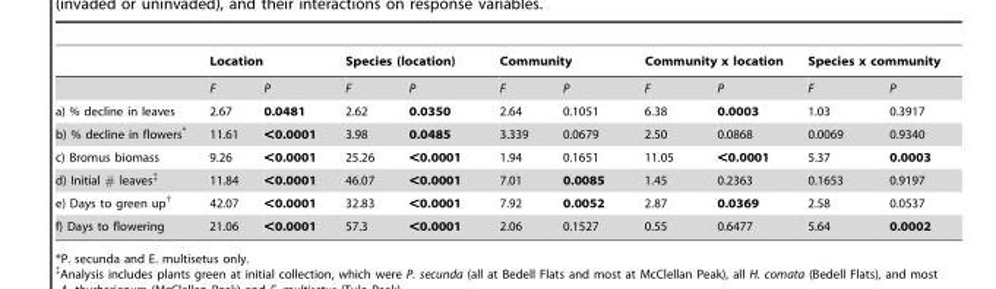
<table><thead><tr><td rowspan="2"></td><td colspan="2">Location</td><td colspan="2">Species (location)</td><td colspan="2">Community</td><td colspan="2">Community x location</td><td colspan="2">Species x community</td></tr><tr><td>F</td><td>P</td><td>F</td><td>P</td><td>F</td><td>P</td><td>F</td><td>P</td><td>F</td><td>P</td></tr></thead><tbody><tr><td>a) % decline in leaves</td><td>2.67</td><td>0.0481</td><td>2.62</td><td>0.0350</td><td>2.64</td><td>0.1051</td><td>6.38</td><td>0.0003</td><td>1.03</td><td>0.3917</td></tr><tr><td>b) % decline in flowers*</td><td>11.61</td><td>&lt;0.0001</td><td>3.98</td><td>0.0485</td><td>3.339</td><td>0.0679</td><td>2.50</td><td>0.0868</td><td>0.0069</td><td>0.9340</td></tr><tr><td>c) Bromus biomass</td><td>9.26</td><td>&lt;0.0001</td><td>25.26</td><td>&lt;0.0001</td><td>1.94</td><td>0.1651</td><td>11.05</td><td>&lt;0.0001</td><td>5.37</td><td>0.0003</td></tr><tr><td>d) Initial # leaves‡</td><td>11.84</td><td>&lt;0.0001</td><td>46.07</td><td>&lt;0.0001</td><td>7.01</td><td>0.0085</td><td>1.45</td><td>0.2363</td><td>0.1653</td><td>0.9197</td></tr><tr><td>e) Days to green up†</td><td>42.07</td><td>&lt;0.0001</td><td>32.83</td><td>&lt;0.0001</td><td>7.92</td><td>0.0052</td><td>2.87</td><td>0.0369</td><td>2.58</td><td>0.0537</td></tr><tr><td>f) Days to flowering</td><td>21.06</td><td>&lt;0.0001</td><td>57.3</td><td>&lt;0.0001</td><td>2.06</td><td>0.1527</td><td>0.55</td><td>0.6477</td><td>5.64</td><td>0.0002</td></tr></tbody></table>